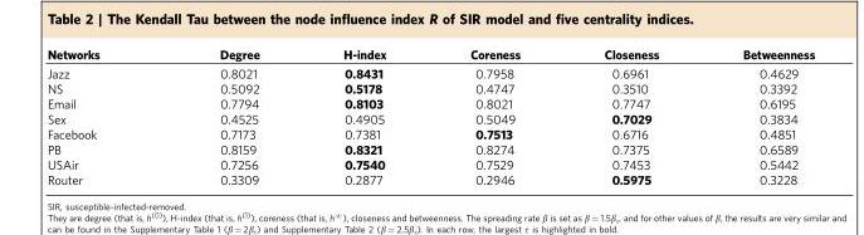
<table><thead><tr><td>Networks</td><td>Degree</td><td>H-index</td><td>Coreness</td><td>Closeness</td><td>Betweenness</td></tr></thead><tbody><tr><td>Jazz</td><td>0.8021</td><td>0.8431</td><td>0.7958</td><td>0.6961</td><td>0.4629</td></tr><tr><td>NS</td><td>0.5092</td><td>0.5178</td><td>0.4747</td><td>0.3510</td><td>0.3392</td></tr><tr><td>Email</td><td>0.7794</td><td>0.8103</td><td>0.8021</td><td>0.7747</td><td>0.6195</td></tr><tr><td>Sex</td><td>0.4525</td><td>0.4905</td><td>0.5049</td><td>0.7029</td><td>0.3834</td></tr><tr><td>Facebook</td><td>0.7173</td><td>0.7381</td><td>0.7513</td><td>0.6716</td><td>0.4851</td></tr><tr><td>PB</td><td>0.8159</td><td>0.8321</td><td>0.8274</td><td>0.7375</td><td>0.6589</td></tr><tr><td>USAir</td><td>0.7256</td><td>0.7540</td><td>0.7529</td><td>0.7453</td><td>0.5442</td></tr><tr><td>Router</td><td>0.3309</td><td>0.2877</td><td>0.2946</td><td>0.5975</td><td>0.3228</td></tr></tbody></table>